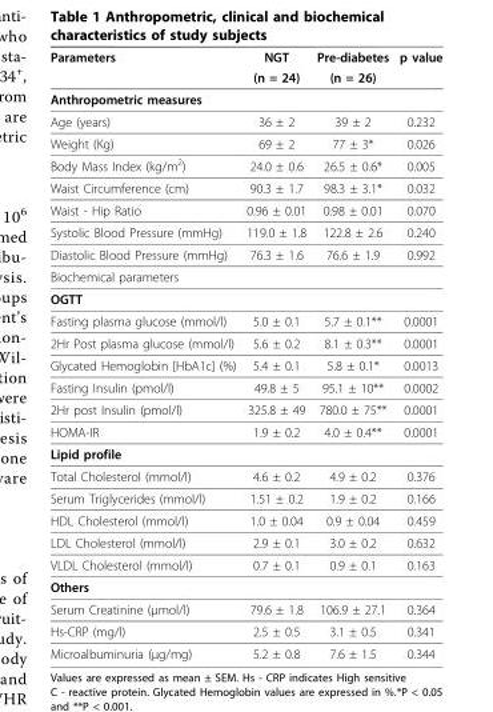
<table><thead><tr><td rowspan="2">Parameters</td><td rowspan="2">NGT (n = 24)</td><td rowspan="2">Pre-diabetes (n = 26)</td><td rowspan="2">p value</td></tr><tr></tr></thead><tbody><tr><td colspan="4">Anthropometric measures</td></tr><tr><td>Age (years)</td><td>36 ± 2</td><td>39 ± 2</td><td>0.232</td></tr><tr><td>Weight (Kg)</td><td>69 ± 2</td><td>77 ± 3*</td><td>0.026</td></tr><tr><td>Body Mass Index (kg/m<sup>2</sup>)</td><td>24.0 ± 0.6</td><td>26.5 ± 0.6*</td><td>0.005</td></tr><tr><td>Waist Circumference (cm)</td><td>90.3 ± 1.7</td><td>98.3 ± 3.1*</td><td>0.032</td></tr><tr><td>Waist - Hip Ratio</td><td>0.96 ± 0.01</td><td>0.98 ± 0.01</td><td>0.070</td></tr><tr><td>Systolic Blood Pressure (mmHg)</td><td>119.0 ± 1.8</td><td>122.8 ± 2.6</td><td>0.240</td></tr><tr><td>Diastolic Blood Pressure (mmHg)</td><td>76.3 ± 1.6</td><td>76.6 ± 1.9</td><td>0.992</td></tr><tr><td colspan="4">Biochemical parameters</td></tr><tr><td colspan="4">OGTT</td></tr><tr><td>Fasting plasma glucose (mmol/l)</td><td>5.0 ± 0.1</td><td>5.7 ± 0.1**</td><td>0.0001</td></tr><tr><td>2Hr Post plasma glucose (mmol/l)</td><td>5.6 ± 0.2</td><td>8.1 ± 0.3**</td><td>0.0001</td></tr><tr><td>Glycated Hemoglobin [HbA1c] (%)</td><td>5.4 ± 0.1</td><td>5.8 ± 0.1*</td><td>0.0013</td></tr><tr><td>Fasting Insulin (pmol/l)</td><td>49.8 ± 5</td><td>95.1 ± 10**</td><td>0.0002</td></tr><tr><td>2Hr post Insulin (pmol/l)</td><td>325.8 ± 49</td><td>780.0 ± 75**</td><td>0.0001</td></tr><tr><td>HOMA-IR</td><td>1.9 ± 0.2</td><td>4.0 ± 0.4**</td><td>0.0001</td></tr><tr><td colspan="4">Lipid profile</td></tr><tr><td>Total Cholesterol (mmol/l)</td><td>4.6 ± 0.2</td><td>4.9 ± 0.2</td><td>0.376</td></tr><tr><td>Serum Triglycerides (mmol/l)</td><td>1.51 ± 0.2</td><td>1.9 ± 0.2</td><td>0.166</td></tr><tr><td>HDL Cholesterol (mmol/l)</td><td>1.0 ± 0.04</td><td>0.9 ± 0.04</td><td>0.459</td></tr><tr><td>LDL Cholesterol (mmol/l)</td><td>2.9 ± 0.1</td><td>3.0 ± 0.2</td><td>0.632</td></tr><tr><td>VLDL Cholesterol (mmol/l)</td><td>0.7 ± 0.1</td><td>0.9 ± 0.1</td><td>0.163</td></tr><tr><td colspan="4">Others</td></tr><tr><td>Serum Creatinine (μmol/l)</td><td>79.6 ± 1.8</td><td>106.9 ± 27.1</td><td>0.364</td></tr><tr><td>Hs-CRP (mg/l)</td><td>2.5 ± 0.5</td><td>3.1 ± 0.5</td><td>0.341</td></tr><tr><td>Microalbuminuria (μg/mg)</td><td>5.2 ± 0.8</td><td>7.6 ± 1.5</td><td>0.344</td></tr></tbody></table>